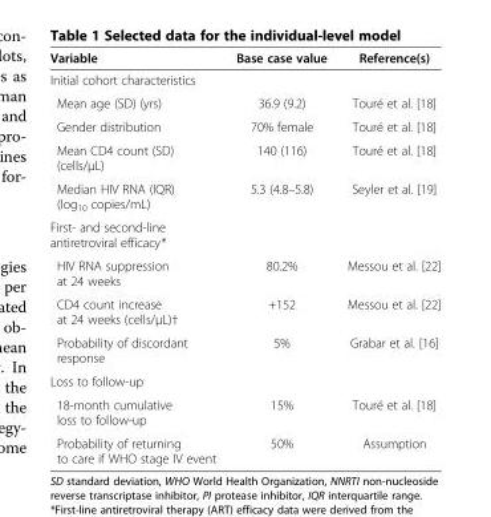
<table><thead><tr><td>Variable</td><td>Base case value</td><td>Reference(s)</td></tr></thead><tbody><tr><td colspan="3">Initial cohort characteristics</td></tr><tr><td>Mean age (SD) (yrs)</td><td>36.9 (9.2)</td><td>Touré et al. [18]</td></tr><tr><td>Gender distribution</td><td>70% female</td><td>Touré et al. [18]</td></tr><tr><td>Mean CD4 count (SD) (cells/μL)</td><td>140 (116)</td><td>Touré et al. [18]</td></tr><tr><td>Median HIV RNA (IQR) (log<sub>10</sub> copies/mL)</td><td>5.3 (4.8–5.8)</td><td>Seyler et al. [19]</td></tr><tr><td colspan="3">First- and second-line antiretroviral efficacy*</td></tr><tr><td>HIV RNA suppression at 24 weeks</td><td>80.2%</td><td>Messou et al. [22]</td></tr><tr><td>CD4 count increase at 24 weeks (cells/μL)†</td><td>+152</td><td>Messou et al. [22]</td></tr><tr><td>Probability of discordant response</td><td>5%</td><td>Grabar et al. [16]</td></tr><tr><td colspan="3">Loss to follow-up</td></tr><tr><td>18-month cumulative loss to follow-up</td><td>15%</td><td>Touré et al. [18]</td></tr><tr><td>Probability of returning to care if WHO stage IV event</td><td>50%</td><td>Assumption</td></tr></tbody></table>